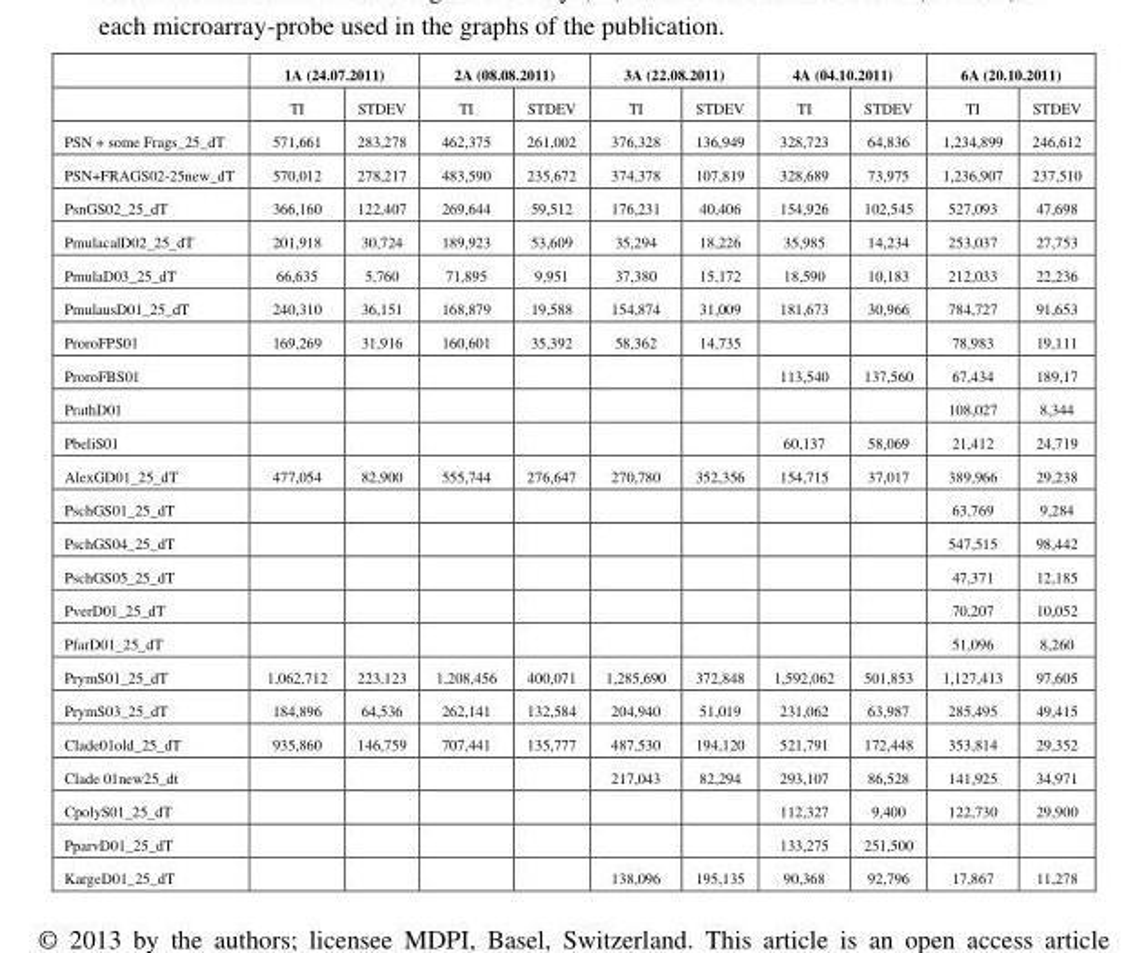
<table><thead><tr><td rowspan="2"></td><td colspan="2">1A (24.07.2011)</td><td colspan="2">2A (08.08.2011)</td><td colspan="2">3A (22.08.2011)</td><td colspan="2">4A (04.10.2011)</td><td colspan="2">6A (20.10.2011)</td></tr><tr><td>TI</td><td>STDEV</td><td>TI</td><td>STDEV</td><td>TI</td><td>STDEV</td><td>TI</td><td>STDEV</td><td>TI</td><td>STDEV</td></tr></thead><tbody><tr><td>PSN + some Frags_25_dT</td><td>571,661</td><td>283,278</td><td>462,375</td><td>261,002</td><td>376,328</td><td>136,949</td><td>328,723</td><td>64,836</td><td>1,234,899</td><td>246,612</td></tr><tr><td>PSN+FRAGS02-25new_dT</td><td>570,012</td><td>278,217</td><td>483,590</td><td>235,672</td><td>374,378</td><td>107,819</td><td>328,689</td><td>73,975</td><td>1,236,907</td><td>237,510</td></tr><tr><td>PsnGS02_25_dT</td><td>366,160</td><td>122,407</td><td>269,644</td><td>59,512</td><td>176,231</td><td>40,406</td><td>154,926</td><td>102,545</td><td>527,093</td><td>47,698</td></tr><tr><td>PmulacalD02_25_dT</td><td>201,918</td><td>30,724</td><td>189,923</td><td>53,609</td><td>35,294</td><td>18,226</td><td>35,985</td><td>14,234</td><td>253,037</td><td>27,753</td></tr><tr><td>PmulaD03_25_dT</td><td>66,635</td><td>5,760</td><td>71,895</td><td>9,951</td><td>37,380</td><td>15,172</td><td>18,590</td><td>10,183</td><td>212,033</td><td>22,236</td></tr><tr><td>PmulausD01_25_dT</td><td>240,310</td><td>36,151</td><td>168,879</td><td>19,588</td><td>154,874</td><td>31,009</td><td>181,673</td><td>30,966</td><td>784,727</td><td>91,653</td></tr><tr><td>ProroFPS01</td><td>169,269</td><td>31,916</td><td>160,601</td><td>35,392</td><td>58,362</td><td>14,735</td><td></td><td></td><td>78,983</td><td>19,111</td></tr><tr><td>ProroFBS01</td><td></td><td></td><td></td><td></td><td></td><td></td><td>113,540</td><td>137,560</td><td>67,434</td><td>189,17</td></tr><tr><td>PrathD01</td><td></td><td></td><td></td><td></td><td></td><td></td><td></td><td></td><td>108,027</td><td>8,344</td></tr><tr><td>PbeliS01</td><td></td><td></td><td></td><td></td><td></td><td></td><td>60,137</td><td>58,069</td><td>21,412</td><td>24,719</td></tr><tr><td>AlexGD01_25_dT</td><td>477,054</td><td>82,900</td><td>555,744</td><td>276,647</td><td>270,780</td><td>352,356</td><td>154,715</td><td>37,017</td><td>389,966</td><td>29,238</td></tr><tr><td>PschGS01_25_dT</td><td></td><td></td><td></td><td></td><td></td><td></td><td></td><td></td><td>63,769</td><td>9,284</td></tr><tr><td>PschGS04_25_dT</td><td></td><td></td><td></td><td></td><td></td><td></td><td></td><td></td><td>547,515</td><td>98,442</td></tr><tr><td>PschGS05_25_dT</td><td></td><td></td><td></td><td></td><td></td><td></td><td></td><td></td><td>47,371</td><td>12,185</td></tr><tr><td>PverD01_25_dT</td><td></td><td></td><td></td><td></td><td></td><td></td><td></td><td></td><td>70,207</td><td>10,052</td></tr><tr><td>PfarD01_25_dT</td><td></td><td></td><td></td><td></td><td></td><td></td><td></td><td></td><td>51,096</td><td>8,260</td></tr><tr><td>PrymS01_25_dT</td><td>1,062,712</td><td>223,123</td><td>1,208,456</td><td>400,071</td><td>1,285,690</td><td>372,848</td><td>1,592,062</td><td>501,853</td><td>1,127,413</td><td>97,605</td></tr><tr><td>PrymS03_25_dT</td><td>184,896</td><td>64,536</td><td>262,141</td><td>132,584</td><td>204,940</td><td>51,019</td><td>231,062</td><td>63,987</td><td>285,495</td><td>49,415</td></tr><tr><td>Clade01old_25_dT</td><td>935,860</td><td>146,759</td><td>707,441</td><td>135,777</td><td>487,530</td><td>194,120</td><td>521,791</td><td>172,448</td><td>353,814</td><td>29,352</td></tr><tr><td>Clade 01new25_dt</td><td></td><td></td><td></td><td></td><td>217,043</td><td>82,294</td><td>293,107</td><td>86,528</td><td>141,925</td><td>34,971</td></tr><tr><td>CpolyS01_25_dT</td><td></td><td></td><td></td><td></td><td></td><td></td><td>112,327</td><td>9,400</td><td>122,730</td><td>29,900</td></tr><tr><td>PparvD01_25_dT</td><td></td><td></td><td></td><td></td><td></td><td></td><td>133,275</td><td>251,500</td><td></td><td></td></tr><tr><td>KargeD01_25_dT</td><td></td><td></td><td></td><td></td><td>138,096</td><td>195,135</td><td>90,368</td><td>92,796</td><td>17,867</td><td>11,278</td></tr></tbody></table>